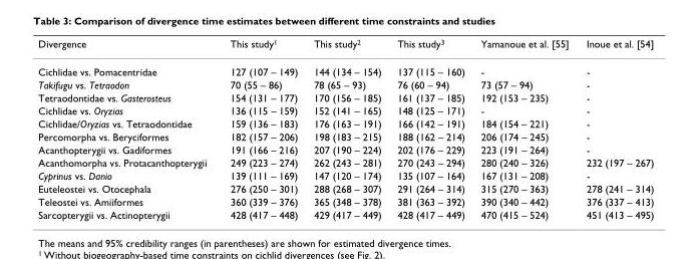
<table><thead><tr><td>Divergence</td><td>This study<sup>1</sup></td><td>This study<sup>2</sup></td><td>This study<sup>3</sup></td><td>Yamanoue et al. [55]</td><td>Inoue et al. [54]</td></tr></thead><tbody><tr><td>Cichlidae vs. Pomacentridae</td><td>127 (107 – 149)</td><td>144 (134 – 154)</td><td>137 (115 – 160)</td><td>-</td><td>-</td></tr><tr><td>Takifugu vs. Tetraodon</td><td>70 (55 – 86)</td><td>78 (65 – 93)</td><td>76 (60 – 94)</td><td>73 (57 – 94)</td><td>-</td></tr><tr><td>Tetraodontidae vs. Gasterosteus</td><td>154 (131 – 177)</td><td>170 (156 – 185)</td><td>161 (137 – 185)</td><td>192 (153 – 235)</td><td>-</td></tr><tr><td>Cichlidae vs. Oryzias</td><td>136 (115 – 159)</td><td>152 (141 – 165)</td><td>148 (125 – 171)</td><td>-</td><td>-</td></tr><tr><td>Cichlidae/Oryzias vs. Tetraodontidae</td><td>159 (136 – 183)</td><td>176 (163 – 191)</td><td>166 (142 – 191)</td><td>184 (154 – 221)</td><td>-</td></tr><tr><td>Percomorpha vs. Beryciformes</td><td>182 (157 – 206)</td><td>198 (183 – 215)</td><td>188 (162 – 214)</td><td>206 (174 – 245)</td><td>-</td></tr><tr><td>Acanthopterygii vs. Gadiformes</td><td>191 (166 – 216)</td><td>207 (190 – 224)</td><td>202 (176 – 229)</td><td>223 (191 – 264)</td><td>-</td></tr><tr><td>Acanthomorpha vs. Protacanthopterygii</td><td>249 (223 – 274)</td><td>262 (243 – 281)</td><td>270 (243 – 294)</td><td>280 (240 – 326)</td><td>232 (197 – 267)</td></tr><tr><td>Cyprinus vs. Danio</td><td>139 (111 – 169)</td><td>147 (120 – 174)</td><td>135 (107 – 164)</td><td>167 (131 – 208)</td><td>-</td></tr><tr><td>Euteleostei vs. Otocephala</td><td>276 (250 – 301)</td><td>288 (268 – 307)</td><td>291 (264 – 314)</td><td>315 (270 – 363)</td><td>278 (241 – 314)</td></tr><tr><td>Teleostei vs. Amiiformes</td><td>360 (339 – 376)</td><td>365 (348 – 378)</td><td>381 (363 – 392)</td><td>390 (340 – 442)</td><td>376 (337 – 413)</td></tr><tr><td>Sarcopterygii vs. Actinopterygii</td><td>428 (417 – 448)</td><td>429 (417 – 449)</td><td>428 (417 – 449)</td><td>470 (415 – 524)</td><td>451 (413 – 495)</td></tr></tbody></table>